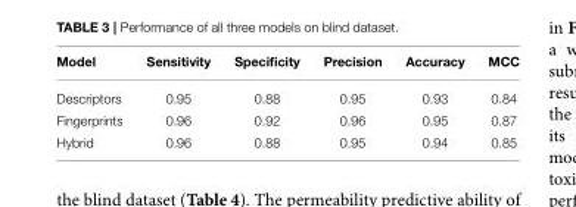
<table><thead><tr><td>Model</td><td>Sensitivity</td><td>Specificity</td><td>Precision</td><td>Accuracy</td><td>MCC</td></tr></thead><tbody><tr><td>Descriptors</td><td>0.95</td><td>0.88</td><td>0.95</td><td>0.93</td><td>0.84</td></tr><tr><td>Fingerprints</td><td>0.96</td><td>0.92</td><td>0.96</td><td>0.95</td><td>0.87</td></tr><tr><td>Hybrid</td><td>0.96</td><td>0.88</td><td>0.95</td><td>0.94</td><td>0.85</td></tr></tbody></table>